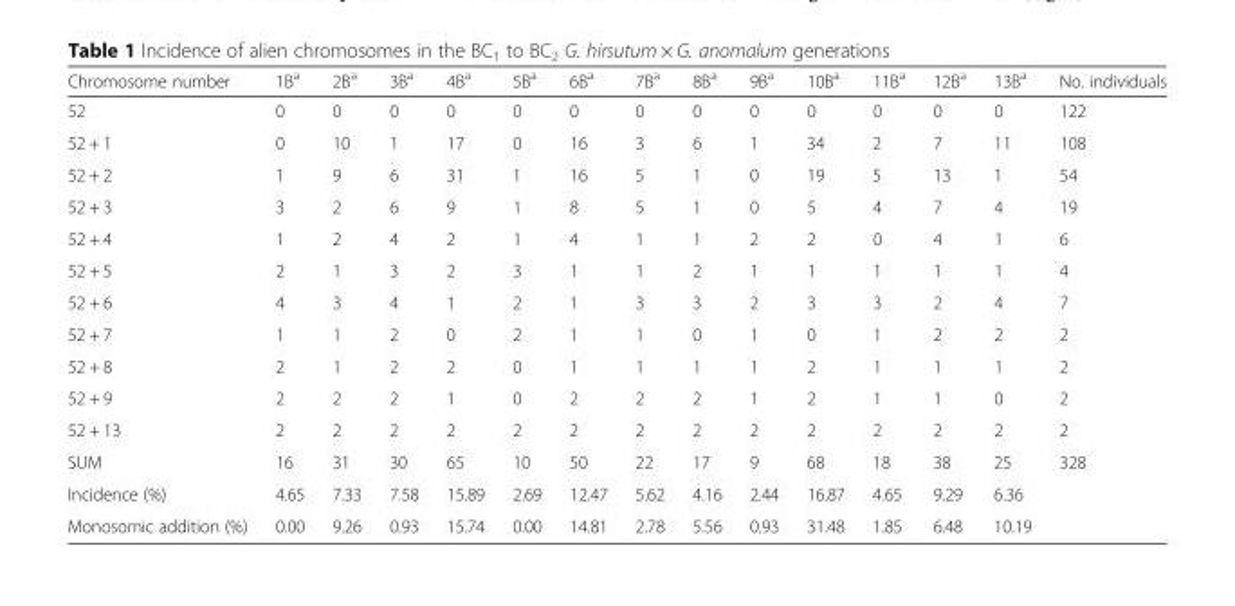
<table><thead><tr><td>Chromosome number</td><td>1B<sup>a</sup></td><td>2B<sup>a</sup></td><td>3B<sup>a</sup></td><td>4B<sup>a</sup></td><td>5B<sup>a</sup></td><td>6B<sup>a</sup></td><td>7B<sup>a</sup></td><td>8B<sup>a</sup></td><td>9B<sup>a</sup></td><td>10B<sup>a</sup></td><td>11B<sup>a</sup></td><td>12B<sup>a</sup></td><td>13B<sup>a</sup></td><td>No. individuals</td></tr></thead><tbody><tr><td>52</td><td>0</td><td>0</td><td>0</td><td>0</td><td>0</td><td>0</td><td>0</td><td>0</td><td>0</td><td>0</td><td>0</td><td>0</td><td>0</td><td>122</td></tr><tr><td>52 + 1</td><td>0</td><td>10</td><td>1</td><td>17</td><td>0</td><td>16</td><td>3</td><td>6</td><td>1</td><td>34</td><td>2</td><td>7</td><td>11</td><td>108</td></tr><tr><td>52 + 2</td><td>1</td><td>9</td><td>6</td><td>31</td><td>1</td><td>16</td><td>5</td><td>1</td><td>0</td><td>19</td><td>5</td><td>13</td><td>1</td><td>54</td></tr><tr><td>52 + 3</td><td>3</td><td>2</td><td>6</td><td>9</td><td>1</td><td>8</td><td>5</td><td>1</td><td>0</td><td>5</td><td>4</td><td>7</td><td>4</td><td>19</td></tr><tr><td>52 + 4</td><td>1</td><td>2</td><td>4</td><td>2</td><td>1</td><td>4</td><td>1</td><td>1</td><td>2</td><td>2</td><td>0</td><td>4</td><td>1</td><td>6</td></tr><tr><td>52 + 5</td><td>2</td><td>1</td><td>3</td><td>2</td><td>3</td><td>1</td><td>1</td><td>2</td><td>1</td><td>1</td><td>1</td><td>1</td><td>1</td><td>4</td></tr><tr><td>52 + 6</td><td>4</td><td>3</td><td>4</td><td>1</td><td>2</td><td>1</td><td>3</td><td>3</td><td>2</td><td>3</td><td>3</td><td>2</td><td>4</td><td>7</td></tr><tr><td>52 + 7</td><td>1</td><td>1</td><td>2</td><td>0</td><td>2</td><td>1</td><td>1</td><td>0</td><td>1</td><td>0</td><td>1</td><td>2</td><td>2</td><td>2</td></tr><tr><td>52 + 8</td><td>2</td><td>1</td><td>2</td><td>2</td><td>0</td><td>1</td><td>1</td><td>1</td><td>1</td><td>2</td><td>1</td><td>1</td><td>1</td><td>2</td></tr><tr><td>52 + 9</td><td>2</td><td>2</td><td>2</td><td>1</td><td>0</td><td>2</td><td>2</td><td>2</td><td>1</td><td>2</td><td>1</td><td>1</td><td>0</td><td>2</td></tr><tr><td>52 + 13</td><td>2</td><td>2</td><td>2</td><td>2</td><td>2</td><td>2</td><td>2</td><td>2</td><td>2</td><td>2</td><td>2</td><td>2</td><td>2</td><td>2</td></tr><tr><td>SUM</td><td>16</td><td>31</td><td>30</td><td>65</td><td>10</td><td>50</td><td>22</td><td>17</td><td>9</td><td>68</td><td>18</td><td>38</td><td>25</td><td>328</td></tr><tr><td>Incidence (%)</td><td>4.65</td><td>7.33</td><td>7.58</td><td>15.89</td><td>2.69</td><td>12.47</td><td>5.62</td><td>4.16</td><td>2.44</td><td>16.87</td><td>4.65</td><td>9.29</td><td>6.36</td><td></td></tr><tr><td>Monosomic addition (%)</td><td>0.00</td><td>9.26</td><td>0.93</td><td>15.74</td><td>0.00</td><td>14.81</td><td>2.78</td><td>5.56</td><td>0.93</td><td>31.48</td><td>1.85</td><td>6.48</td><td>10.19</td><td></td></tr></tbody></table>